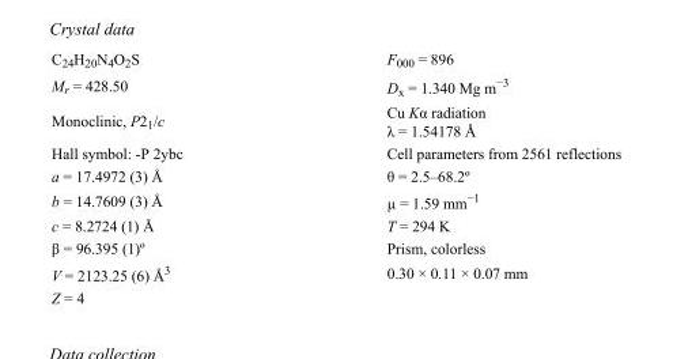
<table><tbody><tr><td>C<sub>24</sub>H<sub>20</sub>N<sub>4</sub>O<sub>2</sub>S</td><td>F000 = 896</td></tr><tr><td>M<sub>r</sub> = 428.50</td><td>D<sub>x</sub> = 1.340 Mg m<sup>−3</sup></td></tr><tr><td>Monoclinic, P2<sub>1</sub>/c</td><td>Cu Kα radiation λ = 1.54178 Å</td></tr><tr><td>Hall symbol: -P 2ybc</td><td>Cell parameters from 2561 reflections</td></tr><tr><td>a = 17.4972 (3) Å</td><td>θ = 2.5–68.2º</td></tr><tr><td>b = 14.7609 (3) Å</td><td>µ = 1.59 mm<sup>−1</sup></td></tr><tr><td>c = 8.2724 (1) Å</td><td>T = 294 K</td></tr><tr><td>β = 96.395 (1)º</td><td>Prism, colorless</td></tr><tr><td>V = 2123.25 (6) Å<sup>3</sup></td><td>0.30 × 0.11 × 0.07 mm</td></tr><tr><td>Z = 4</td><td></td></tr></tbody></table>